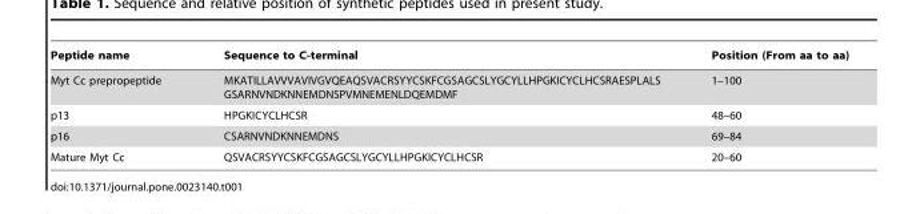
<table><thead><tr><td>Peptide name</td><td>Sequence to C-terminal</td><td>Position (From aa to aa)</td></tr></thead><tbody><tr><td>Myt Cc prepropeptide</td><td>MKATILLAVVVAVIVGVQEAQSVACRSYYCSKFCGSAGCSLYGCYLLHPGKICYCLHCSRAESPLALS GSARNVNDKNNEMDNSPVMNEMENLDQEMDMF</td><td>1–100</td></tr><tr><td>p13</td><td>HPGKICYCLHCSR</td><td>48–60</td></tr><tr><td>p16</td><td>CSARNVNDKNNEMDNS</td><td>69–84</td></tr><tr><td>Mature Myt Cc</td><td>QSVACRSYYCSKFCGSAGCSLYGCYLLHPGKICYCLHCSR</td><td>20–60</td></tr></tbody></table>